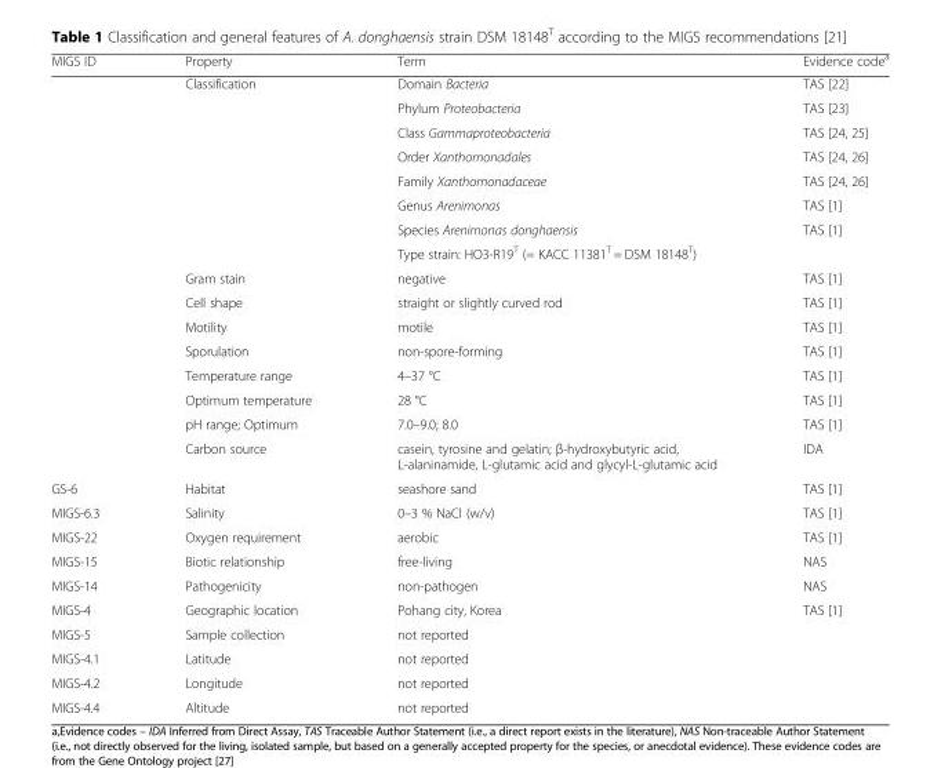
<table><thead><tr><td>MIGS ID</td><td>Property</td><td>Term</td><td>Evidence code<sup>a</sup></td></tr></thead><tbody><tr><td rowspan="16"></td><td rowspan="8">Classification</td><td>Domain Bacteria</td><td>TAS [22]</td></tr><tr><td>Phylum Proteobacteria</td><td>TAS [23]</td></tr><tr><td>Class Gammaproteobacteria</td><td>TAS [24, 25]</td></tr><tr><td>Order Xanthomonadales</td><td>TAS [24, 26]</td></tr><tr><td>Family Xanthomonadaceae</td><td>TAS [24, 26]</td></tr><tr><td>Genus Arenimonas</td><td>TAS [1]</td></tr><tr><td>Species Arenimonas donghaensis</td><td rowspan="2">TAS [1]</td></tr><tr><td>Type strain: HO3-R19<sup>T</sup> (= KACC 11381<sup>T</sup> = DSM 18148<sup>T</sup>)</td></tr><tr><td>Gram stain</td><td>negative</td><td>TAS [1]</td></tr><tr><td>Cell shape</td><td>straight or slightly curved rod</td><td>TAS [1]</td></tr><tr><td>Motility</td><td>motile</td><td>TAS [1]</td></tr><tr><td>Sporulation</td><td>non-spore-forming</td><td>TAS [1]</td></tr><tr><td>Temperature range</td><td>4–37 °C</td><td>TAS [1]</td></tr><tr><td>Optimum temperature</td><td>28 °C</td><td>TAS [1]</td></tr><tr><td>pH range; Optimum</td><td>7.0–9.0; 8.0</td><td>TAS [1]</td></tr><tr><td>Carbon source</td><td>casein, tyrosine and gelatin; β-hydroxybutyric acid, L-alaninamide, L-glutamic acid and glycyl-L-glutamic acid</td><td>IDA</td></tr><tr><td>GS-6</td><td>Habitat</td><td>seashore sand</td><td>TAS [1]</td></tr><tr><td>MIGS-6.3</td><td>Salinity</td><td>0–3 % NaCl (w/v)</td><td>TAS [1]</td></tr><tr><td>MIGS-22</td><td>Oxygen requirement</td><td>aerobic</td><td>TAS [1]</td></tr><tr><td>MIGS-15</td><td>Biotic relationship</td><td>free-living</td><td>NAS</td></tr><tr><td>MIGS-14</td><td>Pathogenicity</td><td>non-pathogen</td><td>NAS</td></tr><tr><td>MIGS-4</td><td>Geographic location</td><td>Pohang city, Korea</td><td>TAS [1]</td></tr><tr><td>MIGS-5</td><td>Sample collection</td><td>not reported</td><td></td></tr><tr><td>MIGS-4.1</td><td>Latitude</td><td>not reported</td><td></td></tr><tr><td>MIGS-4.2</td><td>Longitude</td><td>not reported</td><td></td></tr><tr><td>MIGS-4.4</td><td>Altitude</td><td>not reported</td><td></td></tr></tbody></table>